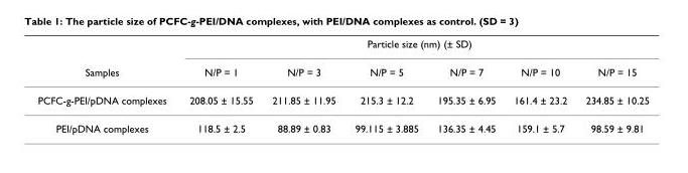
<table><thead><tr><td rowspan="2">Samples</td><td colspan="6">Particle size (nm) (± SD)</td></tr><tr><td>N/P = 1</td><td>N/P = 3</td><td>N/P = 5</td><td>N/P = 7</td><td>N/P = 10</td><td>N/P = 15</td></tr></thead><tbody><tr><td>PCFC-g-PEI/pDNA complexes</td><td>208.05 ± 15.55</td><td>211.85 ± 11.95</td><td>215.3 ± 12.2</td><td>195.35 ± 6.95</td><td>161.4 ± 23.2</td><td>234.85 ± 10.25</td></tr><tr><td>PEI/pDNA complexes</td><td>118.5 ± 2.5</td><td>88.89 ± 0.83</td><td>99.115 ± 3.885</td><td>136.35 ± 4.45</td><td>159.1 ± 5.7</td><td>98.59 ± 9.81</td></tr></tbody></table>